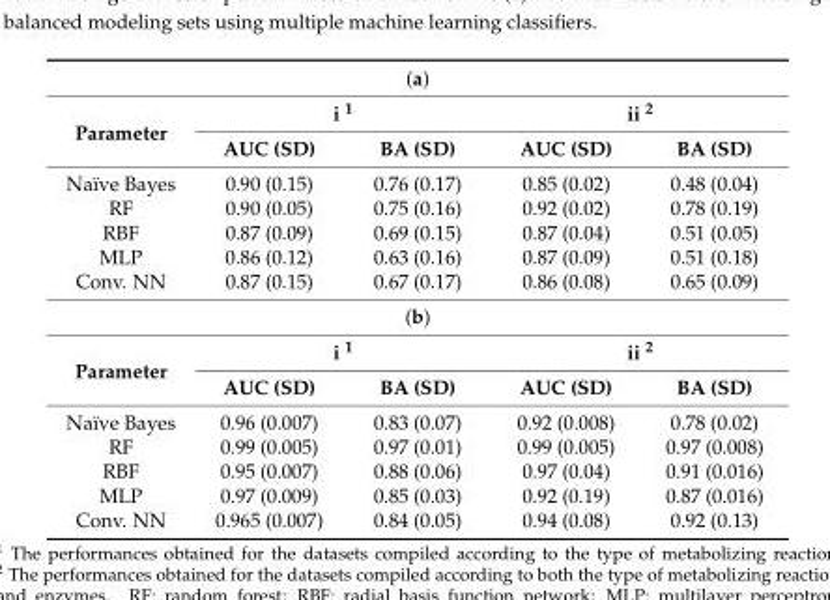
<table><tbody><tr><td colspan="5">(a)</td></tr><tr><td rowspan="2">Parameter</td><td colspan="2">i <sup>1</sup></td><td colspan="2">ii <sup>2</sup></td></tr><tr><td>AUC (SD)</td><td>BA (SD)</td><td>AUC (SD)</td><td>BA (SD)</td></tr><tr><td>Naïve Bayes</td><td>0.90 (0.15)</td><td>0.76 (0.17)</td><td>0.85 (0.02)</td><td>0.48 (0.04)</td></tr><tr><td>RF</td><td>0.90 (0.05)</td><td>0.75 (0.16)</td><td>0.92 (0.02)</td><td>0.78 (0.19)</td></tr><tr><td>RBF</td><td>0.87 (0.09)</td><td>0.69 (0.15)</td><td>0.87 (0.04)</td><td>0.51 (0.05)</td></tr><tr><td>MLP</td><td>0.86 (0.12)</td><td>0.63 (0.16)</td><td>0.87 (0.09)</td><td>0.51 (0.18)</td></tr><tr><td>Conv. NN</td><td>0.87 (0.15)</td><td>0.67 (0.17)</td><td>0.86 (0.08)</td><td>0.65 (0.09)</td></tr><tr><td colspan="5">(b)</td></tr><tr><td rowspan="2">Parameter</td><td colspan="2">i <sup>1</sup></td><td colspan="2">ii <sup>2</sup></td></tr><tr><td>AUC (SD)</td><td>BA (SD)</td><td>AUC (SD)</td><td>BA (SD)</td></tr><tr><td>Naïve Bayes</td><td>0.96 (0.007)</td><td>0.83 (0.07)</td><td>0.92 (0.008)</td><td>0.78 (0.02)</td></tr><tr><td>RF</td><td>0.99 (0.005)</td><td>0.97 (0.01)</td><td>0.99 (0.005)</td><td>0.97 (0.008)</td></tr><tr><td>RBF</td><td>0.95 (0.007)</td><td>0.88 (0.06)</td><td>0.97 (0.04)</td><td>0.91 (0.016)</td></tr><tr><td>MLP</td><td>0.97 (0.009)</td><td>0.85 (0.03)</td><td>0.92 (0.19)</td><td>0.87 (0.016)</td></tr><tr><td>Conv. NN</td><td>0.965 (0.007)</td><td>0.84 (0.05)</td><td>0.94 (0.08)</td><td>0.92 (0.13)</td></tr></tbody></table>